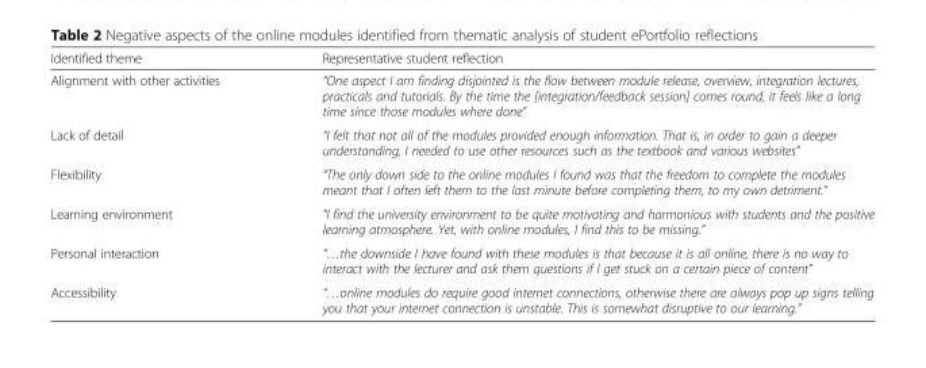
<table><thead><tr><td>Identified theme</td><td>Representative student reflection</td></tr></thead><tbody><tr><td>Alignment with other activities</td><td>“One aspect I am finding disjointed is the flow between module release, overview, integration lectures, practicals and tutorials. By the time the [integration/feedback session] comes round, it feels like a long time since those modules where done”</td></tr><tr><td>Lack of detail</td><td>“I felt that not all of the modules provided enough information. That is, in order to gain a deeper understanding, I needed to use other resources such as the textbook and various websites”</td></tr><tr><td>Flexibility</td><td>“The only down side to the online modules I found was that the freedom to complete the modules meant that I often left them to the last minute before completing them, to my own detriment.”</td></tr><tr><td>Learning environment</td><td>“I find the university environment to be quite motivating and harmonious with students and the positive learning atmosphere. Yet, with online modules, I find this to be missing.”</td></tr><tr><td>Personal interaction</td><td>“…the downside I have found with these modules is that because it is all online, there is no way to interact with the lecturer and ask them questions if I get stuck on a certain piece of content”</td></tr><tr><td>Accessibility</td><td>“…online modules do require good internet connections, otherwise there are always pop up signs telling you that your internet connection is unstable. This is somewhat disruptive to our learning.”</td></tr></tbody></table>